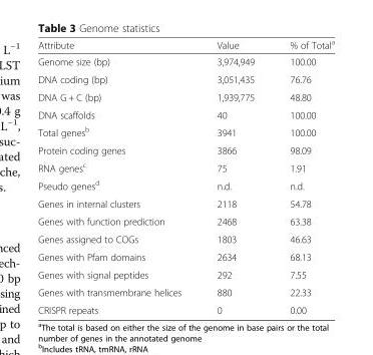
<table><thead><tr><td>Attribute</td><td>Value</td><td>% of Total<sup>a</sup></td></tr></thead><tbody><tr><td>Genome size (bp)</td><td>3,974,949</td><td>100.00</td></tr><tr><td>DNA coding (bp)</td><td>3,051,435</td><td>76.76</td></tr><tr><td>DNA G + C (bp)</td><td>1,939,775</td><td>48.80</td></tr><tr><td>DNA scaffolds</td><td>40</td><td>100.00</td></tr><tr><td>Total genes<sup>b</sup></td><td>3941</td><td>100.00</td></tr><tr><td>Protein coding genes</td><td>3866</td><td>98.09</td></tr><tr><td>RNA genes<sup>c</sup></td><td>75</td><td>1.91</td></tr><tr><td>Pseudo genes<sup>d</sup></td><td>n.d.</td><td>n.d.</td></tr><tr><td>Genes in internal clusters</td><td>2118</td><td>54.78</td></tr><tr><td>Genes with function prediction</td><td>2468</td><td>63.38</td></tr><tr><td>Genes assigned to COGs</td><td>1803</td><td>46.63</td></tr><tr><td>Genes with Pfam domains</td><td>2634</td><td>68.13</td></tr><tr><td>Genes with signal peptides</td><td>292</td><td>7.55</td></tr><tr><td>Genes with transmembrane helices</td><td>880</td><td>22.33</td></tr><tr><td>CRISPR repeats</td><td>0</td><td>0.00</td></tr></tbody></table>